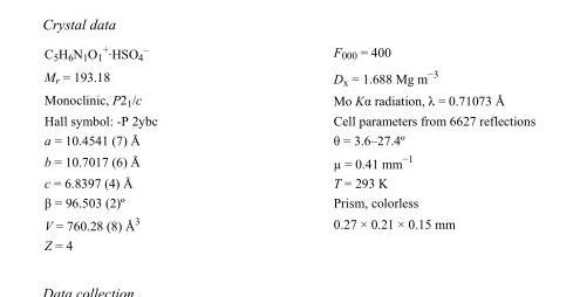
<table><tbody><tr><td>C5H6N1O1 +·HSO4 –</td><td>F000 = 400</td></tr><tr><td>M<sub>r</sub> = 193.18</td><td>D<sub>x</sub> = 1.688 Mg m<sup>−3</sup></td></tr><tr><td>Monoclinic, P2<sub>1</sub>/c</td><td>Mo Kα radiation, λ = 0.71073 Å</td></tr><tr><td>Hall symbol: -P 2ybc</td><td>Cell parameters from 6627 reflections</td></tr><tr><td>a = 10.4541 (7) Å</td><td>θ = 3.6–27.4º</td></tr><tr><td>b = 10.7017 (6) Å</td><td>µ = 0.41 mm<sup>−1</sup></td></tr><tr><td>c = 6.8397 (4) Å</td><td>T = 293 K</td></tr><tr><td>β = 96.503 (2)º</td><td>Prism, colorless</td></tr><tr><td>V = 760.28 (8) Å<sup>3</sup></td><td>0.27 × 0.21 × 0.15 mm</td></tr><tr><td>Z = 4</td><td></td></tr></tbody></table>